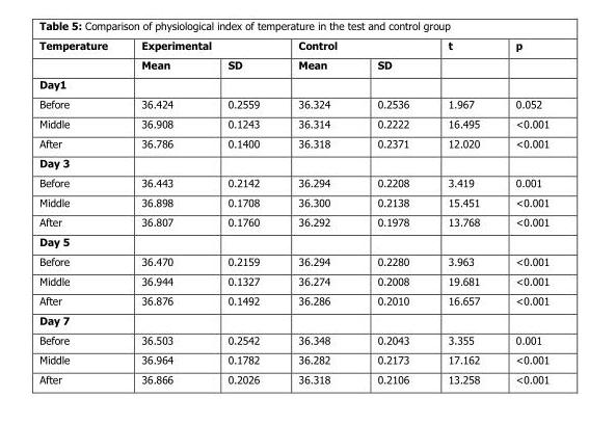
<table><thead><tr><td rowspan="2">Temperature</td><td colspan="2">Experimental</td><td colspan="2">Control</td><td rowspan="2">t</td><td rowspan="2">p</td></tr><tr><td>Mean</td><td>SD</td><td>Mean</td><td>SD</td></tr></thead><tbody><tr><td colspan="7">Day1</td></tr><tr><td>Before</td><td>36.424</td><td>0.2559</td><td>36.324</td><td>0.2536</td><td>1.967</td><td>0.052</td></tr><tr><td>Middle</td><td>36.908</td><td>0.1243</td><td>36.314</td><td>0.2222</td><td>16.495</td><td>&lt;0.001</td></tr><tr><td>After</td><td>36.786</td><td>0.1400</td><td>36.318</td><td>0.2371</td><td>12.020</td><td>&lt;0.001</td></tr><tr><td colspan="7">Day 3</td></tr><tr><td>Before</td><td>36.443</td><td>0.2142</td><td>36.294</td><td>0.2208</td><td>3.419</td><td>0.001</td></tr><tr><td>Middle</td><td>36.898</td><td>0.1708</td><td>36.300</td><td>0.2138</td><td>15.451</td><td>&lt;0.001</td></tr><tr><td>After</td><td>36.807</td><td>0.1760</td><td>36.292</td><td>0.1978</td><td>13.768</td><td>&lt;0.001</td></tr><tr><td colspan="7">Day 5</td></tr><tr><td>Before</td><td>36.470</td><td>0.2159</td><td>36.294</td><td>0.2280</td><td>3.963</td><td>&lt;0.001</td></tr><tr><td>Middle</td><td>36.944</td><td>0.1327</td><td>36.274</td><td>0.2008</td><td>19.681</td><td>&lt;0.001</td></tr><tr><td>After</td><td>36.876</td><td>0.1492</td><td>36.286</td><td>0.2010</td><td>16.657</td><td>&lt;0.001</td></tr><tr><td colspan="7">Day 7</td></tr><tr><td>Before</td><td>36.503</td><td>0.2542</td><td>36.348</td><td>0.2043</td><td>3.355</td><td>0.001</td></tr><tr><td>Middle</td><td>36.964</td><td>0.1782</td><td>36.282</td><td>0.2173</td><td>17.162</td><td>&lt;0.001</td></tr><tr><td>After</td><td>36.866</td><td>0.2026</td><td>36.318</td><td>0.2106</td><td>13.258</td><td>&lt;0.001</td></tr></tbody></table>